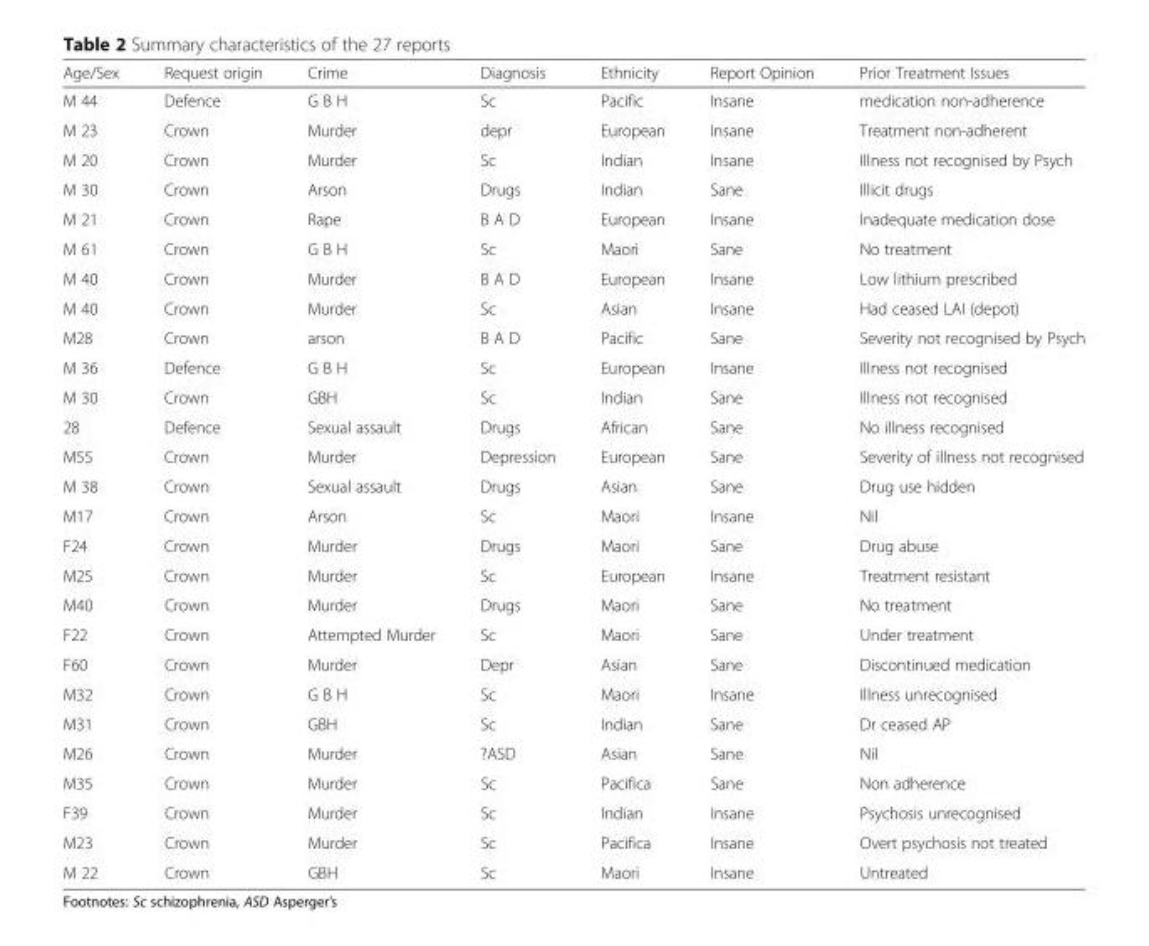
<table><thead><tr><td>Age/Sex</td><td>Request origin</td><td>Crime</td><td>Diagnosis</td><td>Ethnicity</td><td>Report Opinion</td><td>Prior Treatment Issues</td></tr></thead><tbody><tr><td>M 44</td><td>Defence</td><td>G B H</td><td>Sc</td><td>Pacific</td><td>Insane</td><td>medication non-adherence</td></tr><tr><td>M 23</td><td>Crown</td><td>Murder</td><td>depr</td><td>European</td><td>Insane</td><td>Treatment non-adherent</td></tr><tr><td>M 20</td><td>Crown</td><td>Murder</td><td>Sc</td><td>Indian</td><td>Insane</td><td>Illness not recognised by Psych</td></tr><tr><td>M 30</td><td>Crown</td><td>Arson</td><td>Drugs</td><td>Indian</td><td>Sane</td><td>Illicit drugs</td></tr><tr><td>M 21</td><td>Crown</td><td>Rape</td><td>B A D</td><td>European</td><td>Insane</td><td>Inadequate medication dose</td></tr><tr><td>M 61</td><td>Crown</td><td>G B H</td><td>Sc</td><td>Maori</td><td>Sane</td><td>No treatment</td></tr><tr><td>M 40</td><td>Crown</td><td>Murder</td><td>B A D</td><td>European</td><td>Insane</td><td>Low lithium prescribed</td></tr><tr><td>M 40</td><td>Crown</td><td>Murder</td><td>Sc</td><td>Asian</td><td>Insane</td><td>Had ceased LAI (depot)</td></tr><tr><td>M28</td><td>Crown</td><td>arson</td><td>B A D</td><td>Pacific</td><td>Sane</td><td>Severity not recognised by Psych</td></tr><tr><td>M 36</td><td>Defence</td><td>G B H</td><td>Sc</td><td>European</td><td>Insane</td><td>Illness not recognised</td></tr><tr><td>M 30</td><td>Crown</td><td>GBH</td><td>Sc</td><td>Indian</td><td>Sane</td><td>Illness not recognised</td></tr><tr><td>28</td><td>Defence</td><td>Sexual assault</td><td>Drugs</td><td>African</td><td>Sane</td><td>No illness recognised</td></tr><tr><td>M55</td><td>Crown</td><td>Murder</td><td>Depression</td><td>European</td><td>Sane</td><td>Severity of illness not recognised</td></tr><tr><td>M 38</td><td>Crown</td><td>Sexual assault</td><td>Drugs</td><td>Asian</td><td>Sane</td><td>Drug use hidden</td></tr><tr><td>M17</td><td>Crown</td><td>Arson</td><td>Sc</td><td>Maori</td><td>Insane</td><td>Nil</td></tr><tr><td>F24</td><td>Crown</td><td>Murder</td><td>Drugs</td><td>Maori</td><td>Sane</td><td>Drug abuse</td></tr><tr><td>M25</td><td>Crown</td><td>Murder</td><td>Sc</td><td>European</td><td>Insane</td><td>Treatment resistant</td></tr><tr><td>M40</td><td>Crown</td><td>Murder</td><td>Drugs</td><td>Maori</td><td>Sane</td><td>No treatment</td></tr><tr><td>F22</td><td>Crown</td><td>Attempted Murder</td><td>Sc</td><td>Maori</td><td>Sane</td><td>Under treatment</td></tr><tr><td>F60</td><td>Crown</td><td>Murder</td><td>Depr</td><td>Asian</td><td>Sane</td><td>Discontinued medication</td></tr><tr><td>M32</td><td>Crown</td><td>G B H</td><td>Sc</td><td>Maori</td><td>Insane</td><td>Illness unrecognised</td></tr><tr><td>M31</td><td>Crown</td><td>GBH</td><td>Sc</td><td>Indian</td><td>Sane</td><td>Dr ceased AP</td></tr><tr><td>M26</td><td>Crown</td><td>Murder</td><td>?ASD</td><td>Asian</td><td>Sane</td><td>Nil</td></tr><tr><td>M35</td><td>Crown</td><td>Murder</td><td>Sc</td><td>Pacifica</td><td>Sane</td><td>Non adherence</td></tr><tr><td>F39</td><td>Crown</td><td>Murder</td><td>Sc</td><td>Indian</td><td>Insane</td><td>Psychosis unrecognised</td></tr><tr><td>M23</td><td>Crown</td><td>Murder</td><td>Sc</td><td>Pacifica</td><td>Insane</td><td>Overt psychosis not treated</td></tr><tr><td>M 22</td><td>Crown</td><td>GBH</td><td>Sc</td><td>Maori</td><td>Insane</td><td>Untreated</td></tr></tbody></table>